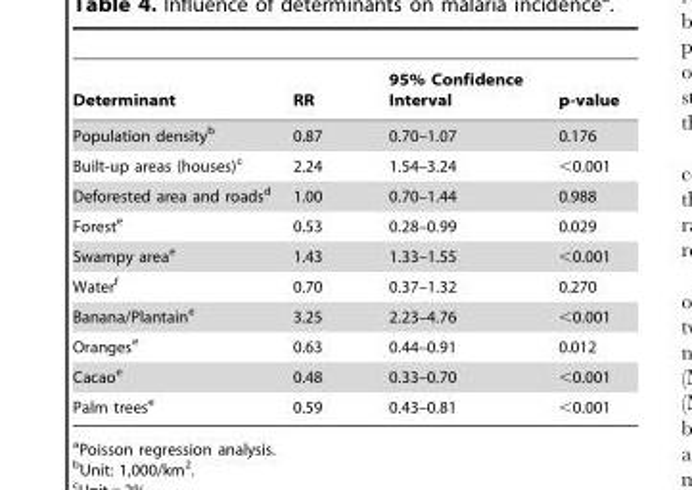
<table><thead><tr><td>Determinant</td><td>RR</td><td>95% Confidence Interval</td><td>p-value</td></tr></thead><tbody><tr><td>Population density<sup>b</sup></td><td>0.87</td><td>0.70–1.07</td><td>0.176</td></tr><tr><td>Built-up areas (houses)<sup>c</sup></td><td>2.24</td><td>1.54–3.24</td><td>&lt;0.001</td></tr><tr><td>Deforested area and roads<sup>d</sup></td><td>1.00</td><td>0.70–1.44</td><td>0.988</td></tr><tr><td>Forest<sup>e</sup></td><td>0.53</td><td>0.28–0.99</td><td>0.029</td></tr><tr><td>Swampy area<sup>e</sup></td><td>1.43</td><td>1.33–1.55</td><td>&lt;0.001</td></tr><tr><td>Water<sup>f</sup></td><td>0.70</td><td>0.37–1.32</td><td>0.270</td></tr><tr><td>Banana/Plantain<sup>e</sup></td><td>3.25</td><td>2.23–4.76</td><td>&lt;0.001</td></tr><tr><td>Oranges<sup>e</sup></td><td>0.63</td><td>0.44–0.91</td><td>0.012</td></tr><tr><td>Cacao<sup>e</sup></td><td>0.48</td><td>0.33–0.70</td><td>&lt;0.001</td></tr><tr><td>Palm trees<sup>e</sup></td><td>0.59</td><td>0.43–0.81</td><td>&lt;0.001</td></tr></tbody></table>